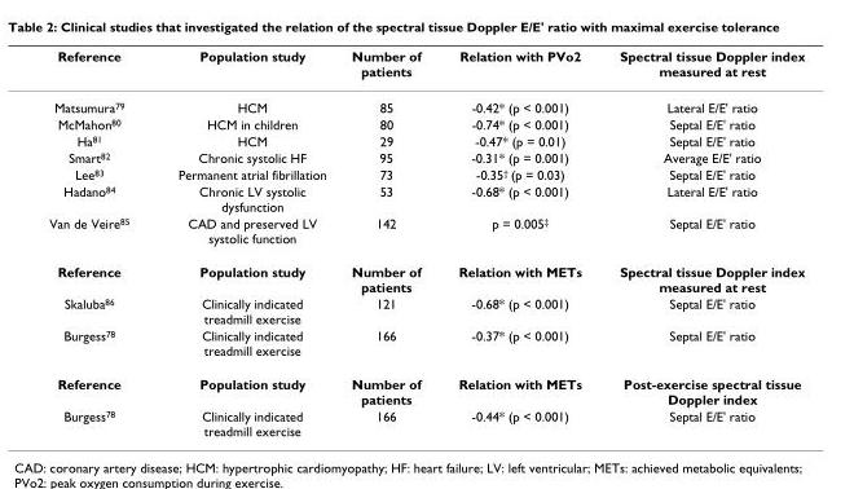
<table><thead><tr><td>Reference</td><td>Population study</td><td>Number of patients</td><td>Relation with PVo2</td><td>Spectral tissue Doppler index measured at rest</td></tr></thead><tbody><tr><td>Matsumura<sup>79</sup></td><td>HCM</td><td>85</td><td>-0.42* (p &lt; 0.001)</td><td>Lateral E/E&#x27; ratio</td></tr><tr><td>McMahon<sup>80</sup></td><td>HCM in children</td><td>80</td><td>-0.74* (p &lt; 0.001)</td><td>Septal E/E&#x27; ratio</td></tr><tr><td>Ha<sup>81</sup></td><td>HCM</td><td>29</td><td>-0.47* (p = 0.01)</td><td>Septal E/E&#x27; ratio</td></tr><tr><td>Smart<sup>82</sup></td><td>Chronic systolic HF</td><td>95</td><td>-0.31* (p = 0.001)</td><td>Average E/E&#x27; ratio</td></tr><tr><td>Lee<sup>83</sup></td><td>Permanent atrial fibrillation</td><td>73</td><td>-0.35<sup>†</sup> (p = 0.03)</td><td>Septal E/E&#x27; ratio</td></tr><tr><td>Hadano<sup>84</sup></td><td>Chronic LV systolic dysfunction</td><td>53</td><td>-0.68* (p &lt; 0.001)</td><td>Lateral E/E&#x27; ratio</td></tr><tr><td>Van de Veire<sup>85</sup></td><td>CAD and preserved LV systolic function</td><td>142</td><td>p = 0.005<sup>‡</sup></td><td>Septal E/E&#x27; ratio</td></tr><tr><td>Reference</td><td>Population study</td><td>Number of patients</td><td>Relation with METs</td><td>Spectral tissue Doppler index measured at rest</td></tr><tr><td>Skaluba<sup>86</sup></td><td>Clinically indicated treadmill exercise</td><td>121</td><td>-0.68* (p &lt; 0.001)</td><td>Septal E/E&#x27; ratio</td></tr><tr><td>Burgess<sup>78</sup></td><td>Clinically indicated treadmill exercise</td><td>166</td><td>-0.37* (p &lt; 0.001)</td><td>Septal E/E&#x27; ratio</td></tr><tr><td>Reference</td><td>Population study</td><td>Number of patients</td><td>Relation with METs</td><td>Post-exercise spectral tissue Doppler index</td></tr><tr><td>Burgess<sup>78</sup></td><td>Clinically indicated treadmill exercise</td><td>166</td><td>-0.44* (p &lt; 0.001)</td><td>Septal E/E&#x27; ratio</td></tr></tbody></table>